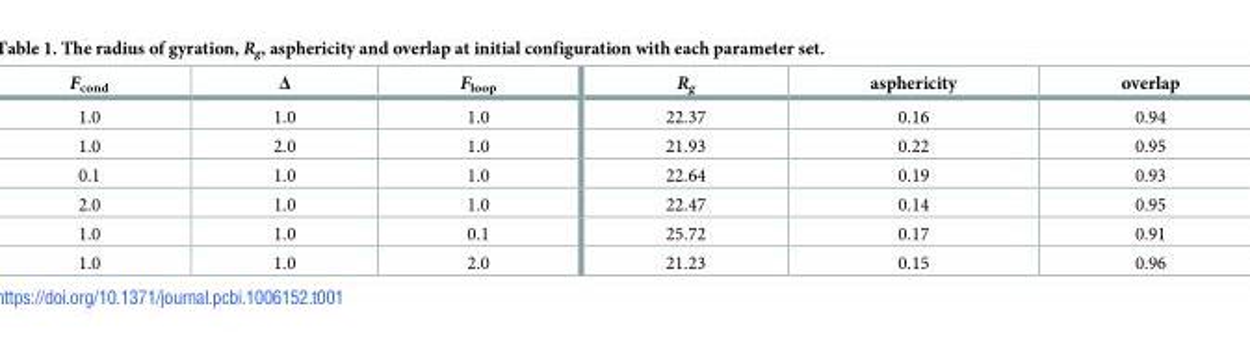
<table><thead><tr><td>F<sub>cond</sub></td><td>Δ</td><td>F<sub>loop</sub></td><td>R<sub>g</sub></td><td>asphericity</td><td>overlap</td></tr></thead><tbody><tr><td>1.0</td><td>1.0</td><td>1.0</td><td>22.37</td><td>0.16</td><td>0.94</td></tr><tr><td>1.0</td><td>2.0</td><td>1.0</td><td>21.93</td><td>0.22</td><td>0.95</td></tr><tr><td>0.1</td><td>1.0</td><td>1.0</td><td>22.64</td><td>0.19</td><td>0.93</td></tr><tr><td>2.0</td><td>1.0</td><td>1.0</td><td>22.47</td><td>0.14</td><td>0.95</td></tr><tr><td>1.0</td><td>1.0</td><td>0.1</td><td>25.72</td><td>0.17</td><td>0.91</td></tr><tr><td>1.0</td><td>1.0</td><td>2.0</td><td>21.23</td><td>0.15</td><td>0.96</td></tr></tbody></table>